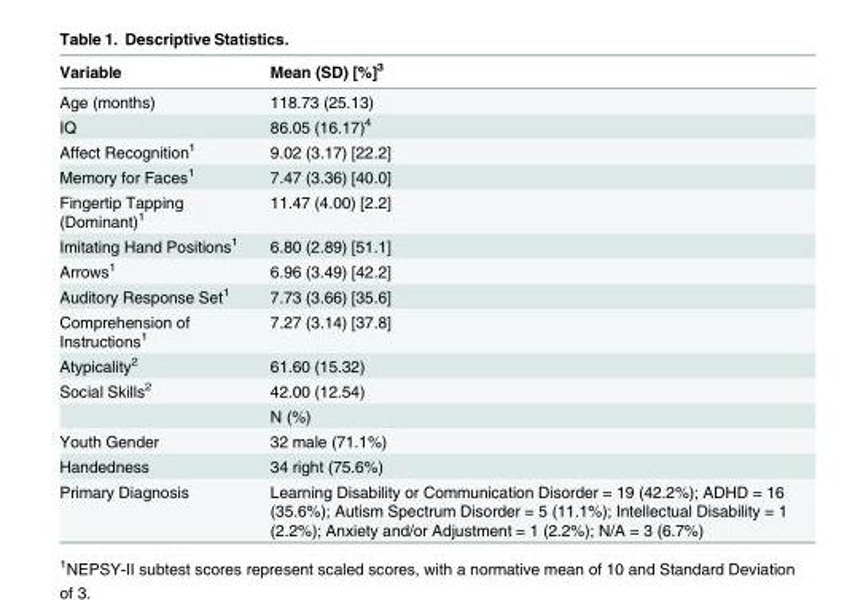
<table><thead><tr><td>Variable</td><td>Mean (SD) [%]<sup>3</sup></td></tr></thead><tbody><tr><td>Age (months)</td><td>118.73 (25.13)</td></tr><tr><td>IQ</td><td>86.05 (16.17)<sup>4</sup></td></tr><tr><td>Affect Recognition<sup>1</sup></td><td>9.02 (3.17) [22.2]</td></tr><tr><td>Memory for Faces<sup>1</sup></td><td>7.47 (3.36) [40.0]</td></tr><tr><td>Fingertip Tapping (Dominant)<sup>1</sup></td><td>11.47 (4.00) [2.2]</td></tr><tr><td>Imitating Hand Positions<sup>1</sup></td><td>6.80 (2.89) [51.1]</td></tr><tr><td>Arrows<sup>1</sup></td><td>6.96 (3.49) [42.2]</td></tr><tr><td>Auditory Response Set<sup>1</sup></td><td>7.73 (3.66) [35.6]</td></tr><tr><td>Comprehension of Instructions<sup>1</sup></td><td>7.27 (3.14) [37.8]</td></tr><tr><td>Atypicality<sup>2</sup></td><td>61.60 (15.32)</td></tr><tr><td rowspan="2">Social Skills<sup>2</sup></td><td>42.00 (12.54)</td></tr><tr><td>N (%)</td></tr><tr><td>Youth Gender</td><td>32 male (71.1%)</td></tr><tr><td>Handedness</td><td>34 right (75.6%)</td></tr><tr><td>Primary Diagnosis</td><td>Learning Disability or Communication Disorder = 19 (42.2%); ADHD = 16 (35.6%); Autism Spectrum Disorder = 5 (11.1%); Intellectual Disability = 1 (2.2%); Anxiety and/or Adjustment = 1 (2.2%); N/A = 3 (6.7%)</td></tr></tbody></table>